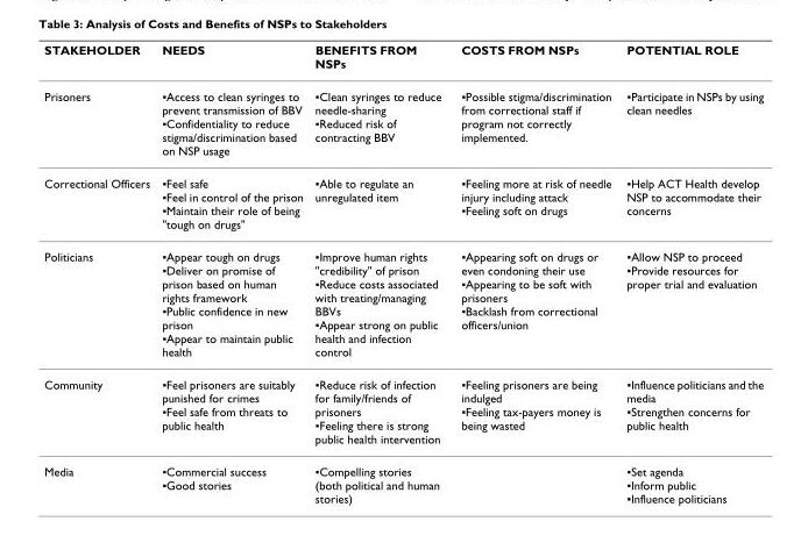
<table><thead><tr><td>STAKEHOLDER</td><td>NEEDS</td><td>BENEFITS FROM NSPs</td><td>COSTS FROM NSPs</td><td>POTENTIAL ROLE</td></tr></thead><tbody><tr><td>Prisoners</td><td>▪Access to clean syringes to prevent transmission of BBV ▪Confidentiality to reduce stigma/discrimination based on NSP usage</td><td>▪Clean syringes to reduce needle-sharing ▪Reduced risk of contracting BBV</td><td>▪Possible stigma/discrimination from correctional staff if program not correctly implemented.</td><td>▪Participate in NSPs by using clean needles</td></tr><tr><td>Correctional Officers</td><td>▪Feel safe ▪Feel in control of the prison ▪Maintain their role of being &quot;tough on drugs&quot;</td><td>▪Able to regulate an unregulated item</td><td>▪Feeling more at risk of needle injury including attack ▪Feeling soft on drugs</td><td>▪Help ACT Health develop NSP to accommodate their concerns</td></tr><tr><td>Politicians</td><td>▪Appear tough on drugs ▪Deliver on promise of prison based on human rights framework ▪Public confidence in new prison ▪Appear to maintain public health</td><td>▪Improve human rights &quot;credibility&quot; of prison ▪Reduce costs associated with treating/managing BBVs ▪Appear strong on public health and infection control</td><td>▪Appearing soft on drugs or even condoning their use ▪Appearing to be soft with prisoners ▪Backlash from correctional officers/union</td><td>▪Allow NSP to proceed ▪Provide resources for proper trial and evaluation</td></tr><tr><td>Community</td><td>▪Feel prisoners are suitably punished for crimes ▪Feel safe from threats to public health</td><td>▪Reduce risk of infection for family/friends of prisoners ▪Feeling there is strong public health intervention</td><td>▪Feeling prisoners are being indulged ▪Feeling tax-payers money is being wasted</td><td>▪Influence politicians and the media ▪Strengthen concerns for public health</td></tr><tr><td>Media</td><td>▪Commercial success ▪Good stories</td><td>▪Compelling stories (both political and human stories)</td><td></td><td>▪Set agenda ▪Inform public ▪Influence politicians</td></tr></tbody></table>